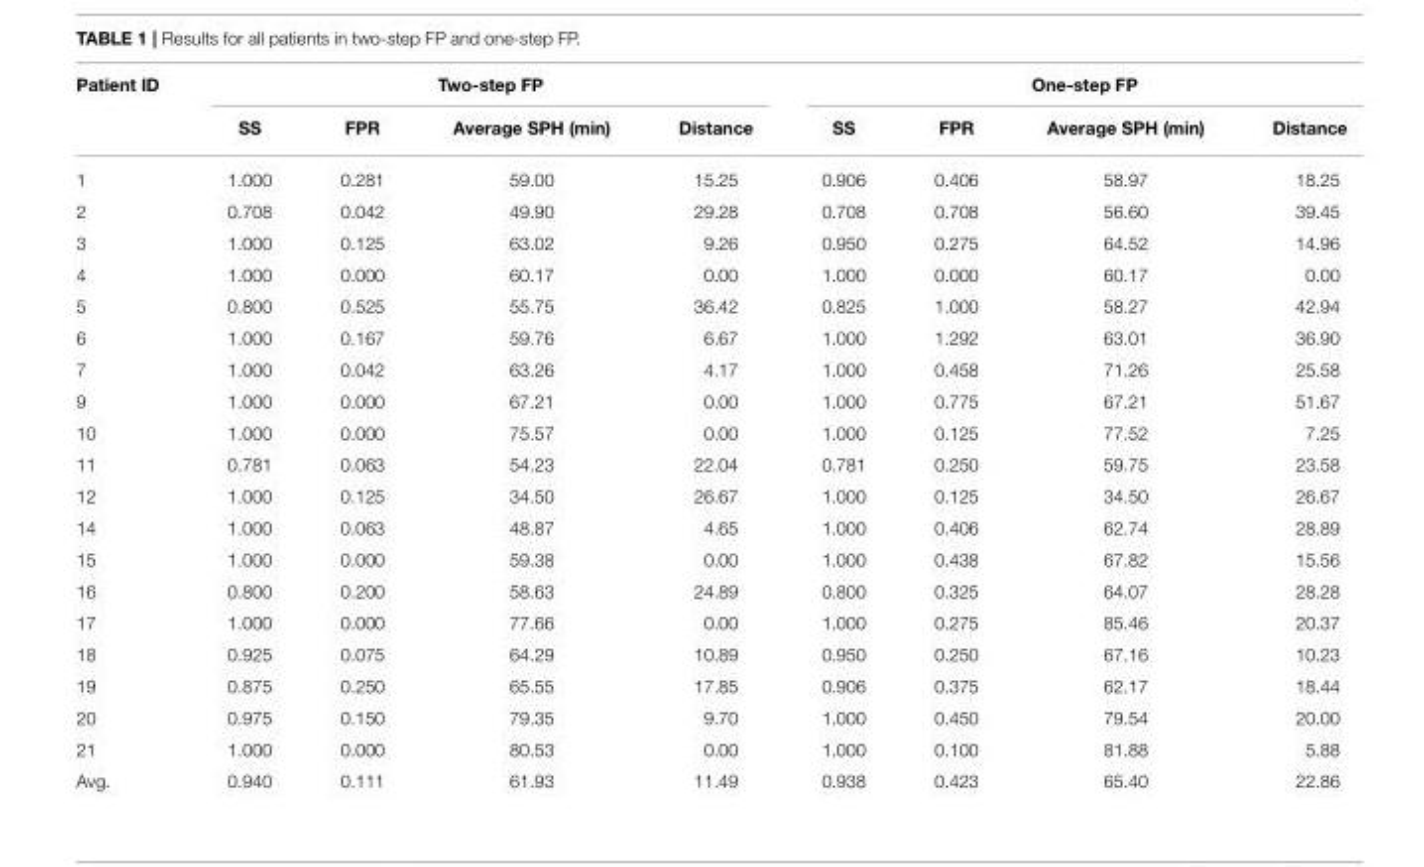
<table><thead><tr><td rowspan="2">Patient ID</td><td colspan="4">Two-step FP</td><td colspan="4">One-step FP</td></tr><tr><td>SS</td><td>FPR</td><td>Average SPH (min)</td><td>Distance</td><td>SS</td><td>FPR</td><td>Average SPH (min)</td><td>Distance</td></tr></thead><tbody><tr><td>1</td><td>1.000</td><td>0.281</td><td>59.00</td><td>15.25</td><td>0.906</td><td>0.406</td><td>58.97</td><td>18.25</td></tr><tr><td>2</td><td>0.708</td><td>0.042</td><td>49.90</td><td>29.28</td><td>0.708</td><td>0.708</td><td>56.60</td><td>39.45</td></tr><tr><td>3</td><td>1.000</td><td>0.125</td><td>63.02</td><td>9.26</td><td>0.950</td><td>0.275</td><td>64.52</td><td>14.96</td></tr><tr><td>4</td><td>1.000</td><td>0.000</td><td>60.17</td><td>0.00</td><td>1.000</td><td>0.000</td><td>60.17</td><td>0.00</td></tr><tr><td>5</td><td>0.800</td><td>0.525</td><td>55.75</td><td>36.42</td><td>0.825</td><td>1.000</td><td>58.27</td><td>42.94</td></tr><tr><td>6</td><td>1.000</td><td>0.167</td><td>59.76</td><td>6.67</td><td>1.000</td><td>1.292</td><td>63.01</td><td>36.90</td></tr><tr><td>7</td><td>1.000</td><td>0.042</td><td>63.26</td><td>4.17</td><td>1.000</td><td>0.458</td><td>71.26</td><td>25.58</td></tr><tr><td>9</td><td>1.000</td><td>0.000</td><td>67.21</td><td>0.00</td><td>1.000</td><td>0.775</td><td>67.21</td><td>51.67</td></tr><tr><td>10</td><td>1.000</td><td>0.000</td><td>75.57</td><td>0.00</td><td>1.000</td><td>0.125</td><td>77.52</td><td>7.25</td></tr><tr><td>11</td><td>0.781</td><td>0.063</td><td>54.23</td><td>22.04</td><td>0.781</td><td>0.250</td><td>59.75</td><td>23.58</td></tr><tr><td>12</td><td>1.000</td><td>0.125</td><td>34.50</td><td>26.67</td><td>1.000</td><td>0.125</td><td>34.50</td><td>26.67</td></tr><tr><td>14</td><td>1.000</td><td>0.063</td><td>48.87</td><td>4.65</td><td>1.000</td><td>0.406</td><td>62.74</td><td>28.89</td></tr><tr><td>15</td><td>1.000</td><td>0.000</td><td>59.38</td><td>0.00</td><td>1.000</td><td>0.438</td><td>67.82</td><td>15.56</td></tr><tr><td>16</td><td>0.800</td><td>0.200</td><td>58.63</td><td>24.89</td><td>0.800</td><td>0.325</td><td>64.07</td><td>28.28</td></tr><tr><td>17</td><td>1.000</td><td>0.000</td><td>77.66</td><td>0.00</td><td>1.000</td><td>0.275</td><td>85.46</td><td>20.37</td></tr><tr><td>18</td><td>0.925</td><td>0.075</td><td>64.29</td><td>10.89</td><td>0.950</td><td>0.250</td><td>67.16</td><td>10.23</td></tr><tr><td>19</td><td>0.875</td><td>0.250</td><td>65.55</td><td>17.85</td><td>0.906</td><td>0.375</td><td>62.17</td><td>18.44</td></tr><tr><td>20</td><td>0.975</td><td>0.150</td><td>79.35</td><td>9.70</td><td>1.000</td><td>0.450</td><td>79.54</td><td>20.00</td></tr><tr><td>21</td><td>1.000</td><td>0.000</td><td>80.53</td><td>0.00</td><td>1.000</td><td>0.100</td><td>81.88</td><td>5.88</td></tr><tr><td>Avg.</td><td>0.940</td><td>0.111</td><td>61.93</td><td>11.49</td><td>0.938</td><td>0.423</td><td>65.40</td><td>22.86</td></tr></tbody></table>